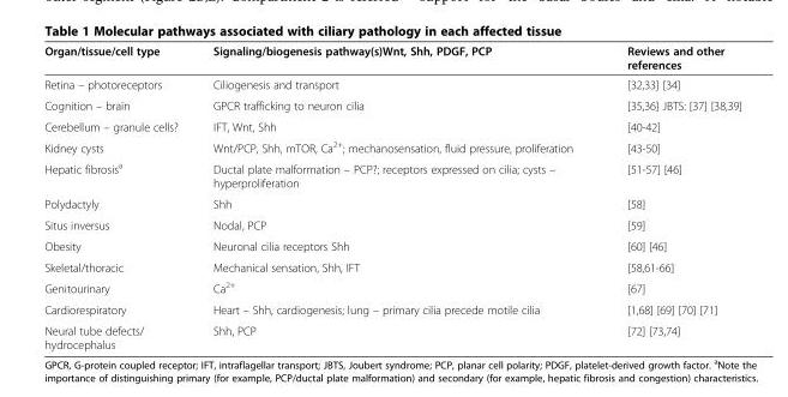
<table><thead><tr><td>Organ/tissue/cell type</td><td>Signaling/biogenesis pathway(s)Wnt, Shh, PDGF, PCP</td><td>Reviews and other references</td></tr></thead><tbody><tr><td>Retina – photoreceptors</td><td>Ciliogenesis and transport</td><td>[32,33] [34]</td></tr><tr><td>Cognition – brain</td><td>GPCR trafficking to neuron cilia</td><td>[35,36] JBTS: [37] [38,39]</td></tr><tr><td>Cerebellum – granule cells?</td><td>IFT, Wnt, Shh</td><td>[40-42]</td></tr><tr><td>Kidney cysts</td><td>Wnt/PCP, Shh, mTOR, Ca<sup>2+</sup>; mechanosensation, fluid pressure, proliferation</td><td>[43-50]</td></tr><tr><td>Hepatic fibrosis<sup>a</sup></td><td>Ductal plate malformation – PCP?; receptors expressed on cilia; cysts – hyperproliferation</td><td>[51-57] [46]</td></tr><tr><td>Polydactyly</td><td>Shh</td><td>[58]</td></tr><tr><td>Situs inversus</td><td>Nodal, PCP</td><td>[59]</td></tr><tr><td>Obesity</td><td>Neuronal cilia receptors Shh</td><td>[60] [46]</td></tr><tr><td>Skeletal/thoracic</td><td>Mechanical sensation, Shh, IFT</td><td>[58,61-66]</td></tr><tr><td>Genitourinary</td><td>Ca<sup>2+</sup></td><td>[67]</td></tr><tr><td>Cardiorespiratory</td><td>Heart – Shh, cardiogenesis; lung – primary cilia precede motile cilia</td><td>[1,68] [69] [70] [71]</td></tr><tr><td>Neural tube defects/ hydrocephalus</td><td>Shh, PCP</td><td>[72] [73,74]</td></tr></tbody></table>